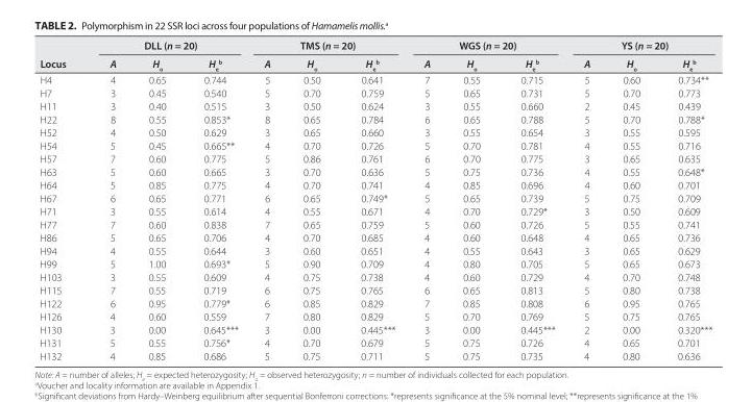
<table><thead><tr><td rowspan="2">Locus</td><td colspan="3">DLL (n = 20)</td><td colspan="3">TMS (n = 20)</td><td colspan="3">WGS (n = 20)</td><td colspan="3">YS (n = 20)</td></tr><tr><td>A</td><td>H<sub>o</sub></td><td>H<sub>e</sub> b</td><td>A</td><td>H<sub>o</sub></td><td>H<sub>e</sub> b</td><td>A</td><td>H<sub>o</sub></td><td>H<sub>e</sub> b</td><td>A</td><td>H<sub>o</sub></td><td>H<sub>e</sub> b</td></tr></thead><tbody><tr><td>H4</td><td>4</td><td>0.65</td><td>0.744</td><td>5</td><td>0.50</td><td>0.641</td><td>7</td><td>0.55</td><td>0.715</td><td>5</td><td>0.60</td><td>0.734**</td></tr><tr><td>H7</td><td>3</td><td>0.45</td><td>0.540</td><td>5</td><td>0.70</td><td>0.759</td><td>5</td><td>0.65</td><td>0.731</td><td>5</td><td>0.70</td><td>0.773</td></tr><tr><td>H11</td><td>3</td><td>0.40</td><td>0.515</td><td>3</td><td>0.50</td><td>0.624</td><td>3</td><td>0.55</td><td>0.660</td><td>2</td><td>0.45</td><td>0.439</td></tr><tr><td>H22</td><td>8</td><td>0.55</td><td>0.853*</td><td>8</td><td>0.65</td><td>0.784</td><td>6</td><td>0.65</td><td>0.788</td><td>5</td><td>0.70</td><td>0.788*</td></tr><tr><td>H52</td><td>4</td><td>0.50</td><td>0.629</td><td>3</td><td>0.65</td><td>0.660</td><td>3</td><td>0.55</td><td>0.654</td><td>3</td><td>0.55</td><td>0.595</td></tr><tr><td>H54</td><td>5</td><td>0.45</td><td>0.665**</td><td>4</td><td>0.70</td><td>0.726</td><td>5</td><td>0.70</td><td>0.781</td><td>4</td><td>0.55</td><td>0.716</td></tr><tr><td>H57</td><td>7</td><td>0.60</td><td>0.775</td><td>5</td><td>0.86</td><td>0.761</td><td>6</td><td>0.70</td><td>0.775</td><td>3</td><td>0.65</td><td>0.635</td></tr><tr><td>H63</td><td>5</td><td>0.60</td><td>0.665</td><td>3</td><td>0.70</td><td>0.636</td><td>5</td><td>0.75</td><td>0.736</td><td>4</td><td>0.55</td><td>0.648*</td></tr><tr><td>H64</td><td>5</td><td>0.85</td><td>0.775</td><td>4</td><td>0.70</td><td>0.741</td><td>4</td><td>0.85</td><td>0.696</td><td>4</td><td>0.60</td><td>0.701</td></tr><tr><td>H67</td><td>6</td><td>0.65</td><td>0.771</td><td>6</td><td>0.65</td><td>0.749*</td><td>5</td><td>0.65</td><td>0.739</td><td>5</td><td>0.75</td><td>0.709</td></tr><tr><td>H71</td><td>3</td><td>0.55</td><td>0.614</td><td>4</td><td>0.55</td><td>0.671</td><td>4</td><td>0.70</td><td>0.729*</td><td>3</td><td>0.50</td><td>0.609</td></tr><tr><td>H77</td><td>7</td><td>0.60</td><td>0.838</td><td>7</td><td>0.65</td><td>0.759</td><td>5</td><td>0.60</td><td>0.726</td><td>5</td><td>0.55</td><td>0.741</td></tr><tr><td>H86</td><td>5</td><td>0.65</td><td>0.706</td><td>4</td><td>0.70</td><td>0.685</td><td>4</td><td>0.60</td><td>0.648</td><td>4</td><td>0.65</td><td>0.736</td></tr><tr><td>H94</td><td>4</td><td>0.55</td><td>0.644</td><td>3</td><td>0.60</td><td>0.651</td><td>4</td><td>0.55</td><td>0.643</td><td>3</td><td>0.65</td><td>0.629</td></tr><tr><td>H99</td><td>5</td><td>1.00</td><td>0.693*</td><td>5</td><td>0.90</td><td>0.709</td><td>4</td><td>0.80</td><td>0.705</td><td>5</td><td>0.65</td><td>0.673</td></tr><tr><td>H103</td><td>3</td><td>0.55</td><td>0.609</td><td>4</td><td>0.75</td><td>0.738</td><td>4</td><td>0.60</td><td>0.729</td><td>4</td><td>0.70</td><td>0.748</td></tr><tr><td>H115</td><td>7</td><td>0.55</td><td>0.719</td><td>6</td><td>0.75</td><td>0.765</td><td>6</td><td>0.65</td><td>0.813</td><td>5</td><td>0.80</td><td>0.738</td></tr><tr><td>H122</td><td>6</td><td>0.95</td><td>0.779*</td><td>6</td><td>0.85</td><td>0.829</td><td>7</td><td>0.85</td><td>0.808</td><td>6</td><td>0.95</td><td>0.765</td></tr><tr><td>H126</td><td>4</td><td>0.60</td><td>0.559</td><td>7</td><td>0.80</td><td>0.829</td><td>5</td><td>0.70</td><td>0.769</td><td>5</td><td>0.75</td><td>0.765</td></tr><tr><td>H130</td><td>3</td><td>0.00</td><td>0.645***</td><td>3</td><td>0.00</td><td>0.445***</td><td>3</td><td>0.00</td><td>0.445***</td><td>2</td><td>0.00</td><td>0.320***</td></tr><tr><td>H131</td><td>5</td><td>0.55</td><td>0.756*</td><td>4</td><td>0.70</td><td>0.679</td><td>5</td><td>0.75</td><td>0.726</td><td>4</td><td>0.65</td><td>0.701</td></tr><tr><td>H132</td><td>4</td><td>0.85</td><td>0.686</td><td>5</td><td>0.75</td><td>0.711</td><td>5</td><td>0.75</td><td>0.735</td><td>4</td><td>0.80</td><td>0.636</td></tr></tbody></table>